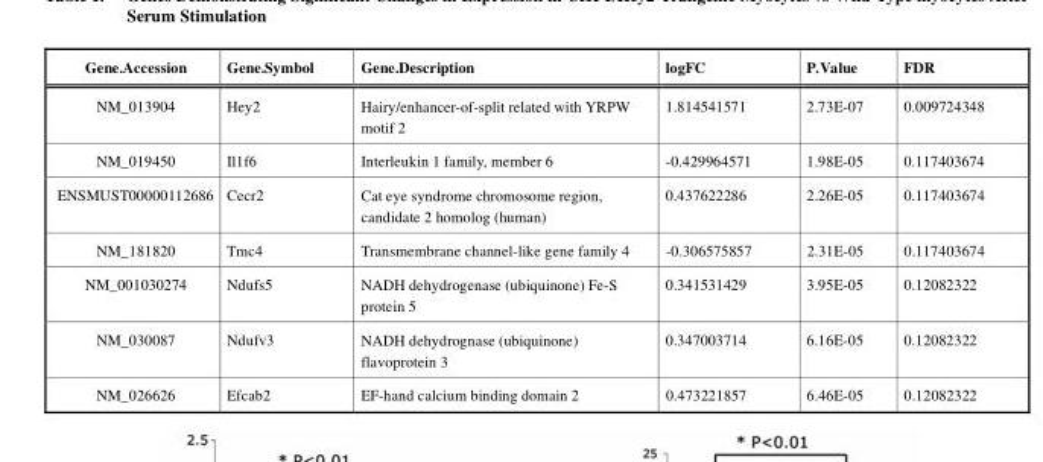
<table><thead><tr><td>Gene.Accession</td><td>Gene.Symbol</td><td>Gene.Description</td><td>logFC</td><td>P.Value</td><td>FDR</td></tr></thead><tbody><tr><td>NM_013904</td><td>Hey2</td><td>Hairy/enhancer-of-split related with YRPW motif 2</td><td>1.814541571</td><td>2.73E-07</td><td>0.009724348</td></tr><tr><td>NM_019450</td><td>Il1f6</td><td>Interleukin 1 family, member 6</td><td>-0.429964571</td><td>1.98E-05</td><td>0.117403674</td></tr><tr><td>ENSMUST00000112686</td><td>Cecr2</td><td>Cat eye syndrome chromosome region, candidate 2 homolog (human)</td><td>0.437622286</td><td>2.26E-05</td><td>0.117403674</td></tr><tr><td>NM_181820</td><td>Tmc4</td><td>Transmembrane channel-like gene family 4</td><td>-0.306575857</td><td>2.31E-05</td><td>0.117403674</td></tr><tr><td>NM_001030274</td><td>Ndufs5</td><td>NADH dehydrogenase (ubiquinone) Fe-S protein 5</td><td>0.341531429</td><td>3.95E-05</td><td>0.12082322</td></tr><tr><td>NM_030087</td><td>Ndufv3</td><td>NADH dehydrognase (ubiquinone) flavoprotein 3</td><td>0.347003714</td><td>6.16E-05</td><td>0.12082322</td></tr><tr><td>NM_026626</td><td>Efcab2</td><td>EF-hand calcium binding domain 2</td><td>0.473221857</td><td>6.46E-05</td><td>0.12082322</td></tr></tbody></table>